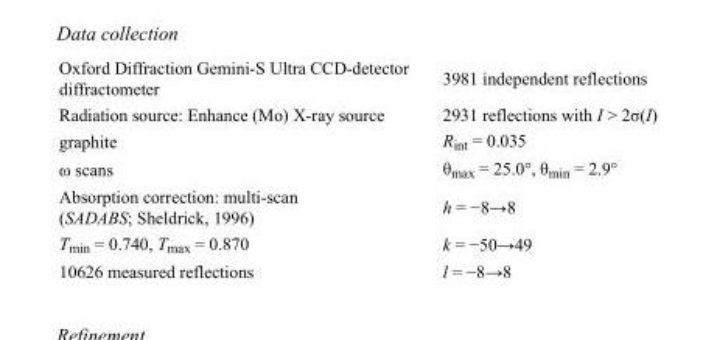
<table><tbody><tr><td>Oxford Diffraction Gemini-S Ultra CCD-detector diffractometer</td><td>3981 independent reflections</td></tr><tr><td>Radiation source: Enhance (Mo) X-ray source</td><td>2931 reflections with I &gt; 2σ(I)</td></tr><tr><td>graphite</td><td>R<sub>int</sub> = 0.035</td></tr><tr><td>ω scans</td><td>θ<sub>max</sub> = 25.0°, θ<sub>min</sub> = 2.9°</td></tr><tr><td>Absorption correction: multi-scan (SADABS; Sheldrick, 1996)</td><td>h = −8→8</td></tr><tr><td>T<sub>min</sub> = 0.740, T<sub>max</sub> = 0.870</td><td>k = −50→49</td></tr><tr><td>10626 measured reflections</td><td>l = −8→8</td></tr></tbody></table>